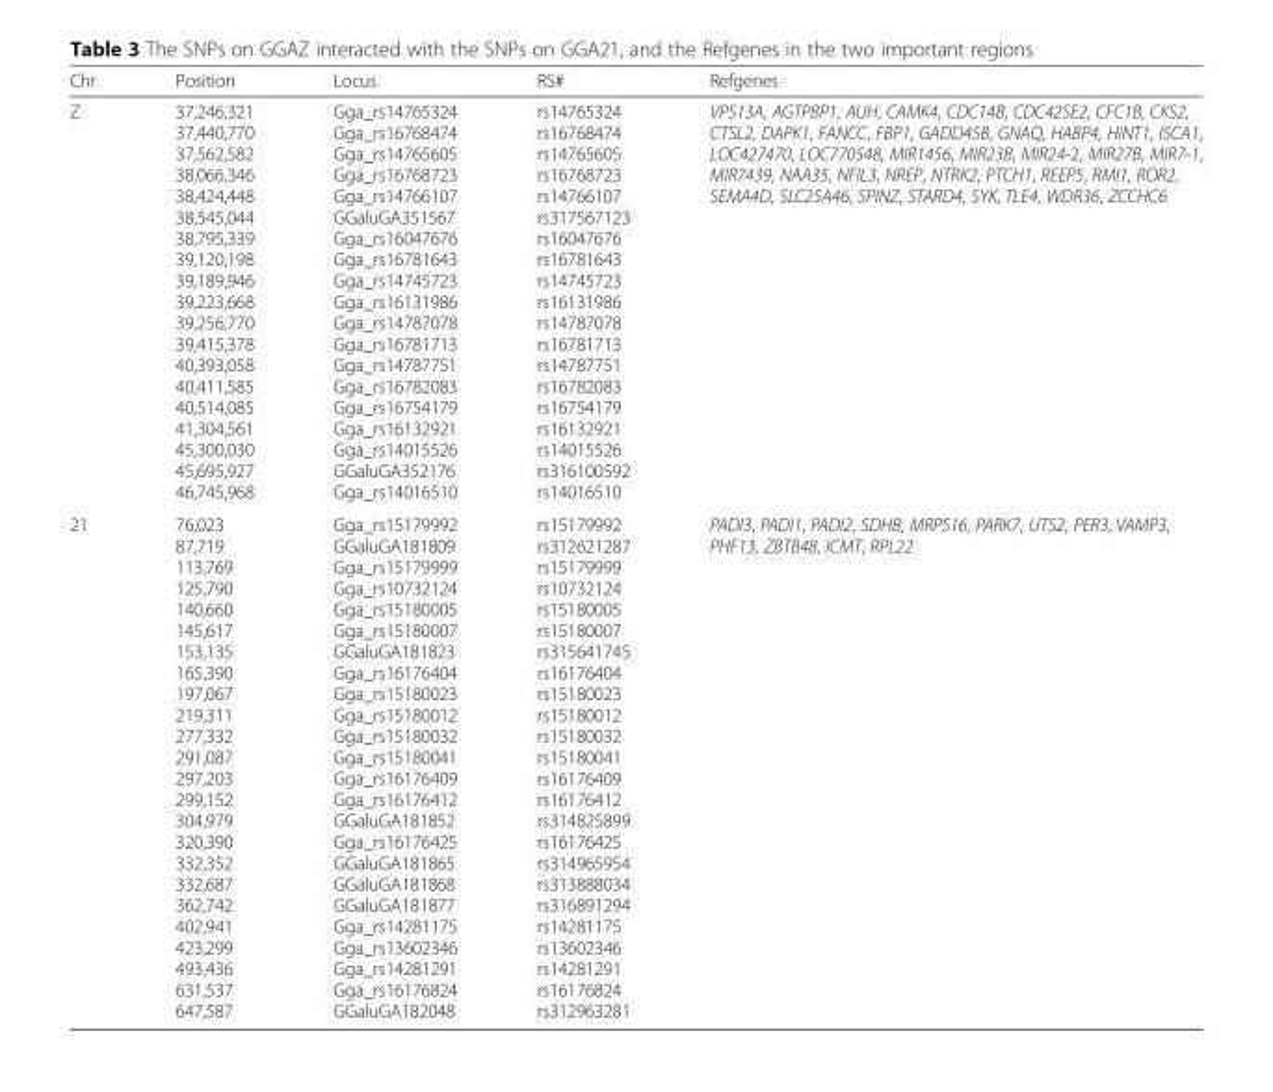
<table><thead><tr><td>Chr</td><td>Position</td><td>Locus</td><td>RS#</td><td>Refgenes</td></tr></thead><tbody><tr><td>Z</td><td>37,246,321 37,440,770 37,562,582 38,066,346 38,424,448 38,545,044 38,795,339 39,120,198 39,189,946 39,223,668 39,256,770 39,415,378 40,393,058 40,411,585 40,514,085 41,304,561 45,300,030 45,695,927 46,745,968</td><td>Gga_rs14765324 Gga_rs16768474 Gga_rs14765605 Gga_rs16768723 Gga_rs14766107 GGaluGA351567 Gga_rs16047676 Gga_rs16781643 Gga_rs14745723 Gga_rs16131986 Gga_rs14787078 Gga_rs16781713 Gga_rs14787751 Gga_rs16782083 Gga_rs16754179 Gga_rs16132921 Gga_rs14015526 GGaluGA352176 Gga_rs14016510</td><td>rs14765324 rs16768474 rs14765605 rs16768723 rs14766107 rs317567123 rs16047676 rs16781643 rs14745723 rs16131986 rs14787078 rs16781713 rs14787751 rs16782083 rs16754179 rs16132921 rs14015526 rs316100592 rs14016510</td><td>VPS13A, AGTPBP1, AUH, CAMK4, CDC14B, CDC42SE2, CFC1B, CKS2, CTSL2, DAPK1, FANCC, FBP1, GADD45B, GNAQ, HABP4, HINT1, ISCA1, LOC427470, LOC770548, MIR1456, MIR23B, MIR24-2, MIR27B, MIR7-1, MIR7439, NAA35, NFIL3, NREP, NTRK2, PTCH1, REEP5, RMI1, ROR2, SEMA4D, SLC25A46, SPINZ, STARD4, SYK, TLE4, WDR36, ZCCHC6</td></tr><tr><td>21</td><td>76,023 87,719 113,769 125,790 140,660 145,617 153,135 165,390 197,067 219,311 277,332 291,087 297,203 299,152 304,979 320,390 332,352 332,687 362,742 402,941 423,299 493,436 631,537 647,587</td><td>Gga_rs15179992 GGaluGA181809 Gga_rs15179999 Gga_rs10732124 Gga_rs15180005 Gga_rs15180007 GGaluGA181823 Gga_rs16176404 Gga_rs15180023 Gga_rs15180012 Gga_rs15180032 Gga_rs15180041 Gga_rs16176409 Gga_rs16176412 GGaluGA181852 Gga_rs16176425 GGaluGA181865 GGaluGA181868 GGaluGA181877 Gga_rs14281175 Gga_rs13602346 Gga_rs14281291 Gga_rs16176824 GGaluGA182048</td><td>rs15179992 rs312621287 rs15179999 rs10732124 rs15180005 rs15180007 rs315641745 rs16176404 rs15180023 rs15180012 rs15180032 rs15180041 rs16176409 rs16176412 rs314825899 rs16176425 rs314965954 rs313888034 rs316891294 rs14281175 rs13602346 rs14281291 rs16176824 rs312963281</td><td>PADI3, PADI1, PADI2, SDHB, MRPS16, PARK7, UTS2, PER3, VAMP3, PHF13, ZBTB48, ICMT, RPL22</td></tr></tbody></table>